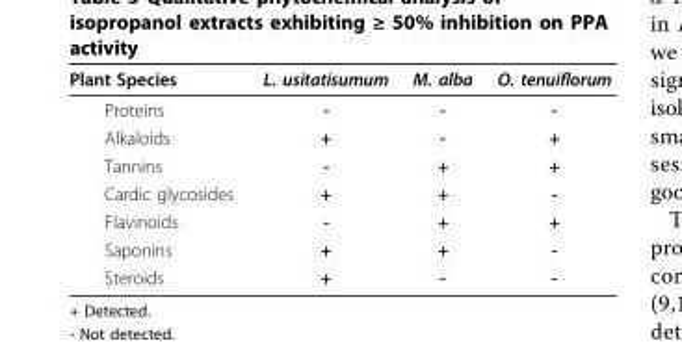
<table><thead><tr><td>Plant Species</td><td>L. usitatisumum</td><td>M. alba</td><td>O. tenuiflorum</td></tr></thead><tbody><tr><td>Proteins</td><td>-</td><td>-</td><td>-</td></tr><tr><td>Alkaloids</td><td>+</td><td>-</td><td>+</td></tr><tr><td>Tannins</td><td>-</td><td>+</td><td>+</td></tr><tr><td>Cardic glycosides</td><td>+</td><td>+</td><td>-</td></tr><tr><td>Flavinoids</td><td>-</td><td>+</td><td>+</td></tr><tr><td>Saponins</td><td>+</td><td>+</td><td>-</td></tr><tr><td>Steroids</td><td>+</td><td>-</td><td>-</td></tr></tbody></table>